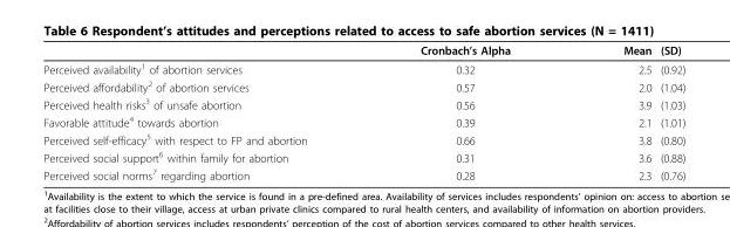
<table><thead><tr><td></td><td>Cronbach’s Alpha</td><td>Mean</td><td>(SD)</td></tr></thead><tbody><tr><td>Perceived availability<sup>1</sup> of abortion services</td><td>0.32</td><td>2.5</td><td>(0.92)</td></tr><tr><td>Perceived affordability<sup>2</sup> of abortion services</td><td>0.57</td><td>2.0</td><td>(1.04)</td></tr><tr><td>Perceived health risks<sup>3</sup> of unsafe abortion</td><td>0.56</td><td>3.9</td><td>(1.03)</td></tr><tr><td>Favorable attitude<sup>4</sup> towards abortion</td><td>0.39</td><td>2.1</td><td>(1.01)</td></tr><tr><td>Perceived self-efficacy<sup>5</sup> with respect to FP and abortion</td><td>0.66</td><td>3.8</td><td>(0.80)</td></tr><tr><td>Perceived social support<sup>6</sup> within family for abortion</td><td>0.31</td><td>3.6</td><td>(0.88)</td></tr><tr><td>Perceived social norms<sup>7</sup> regarding abortion</td><td>0.28</td><td>2.3</td><td>(0.76)</td></tr></tbody></table>